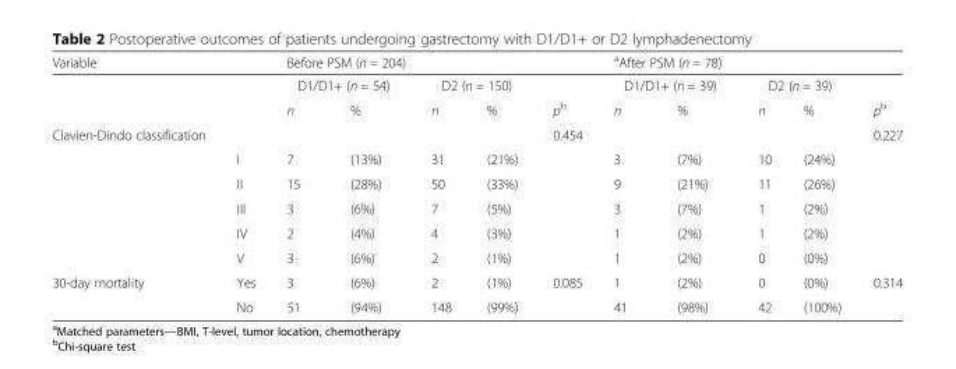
<table><thead><tr><td rowspan="3">Variable</td><td rowspan="3"></td><td colspan="5">Before PSM (n = 204)</td><td colspan="5"><sup>a</sup>After PSM (n = 78)</td></tr><tr><td colspan="2">D1/D1+ (n = 54)</td><td colspan="2">D2 (n = 150)</td><td rowspan="2">p<sup>b</sup></td><td colspan="2">D1/D1+ (n = 39)</td><td colspan="2">D2 (n = 39)</td><td rowspan="2">p<sup>b</sup></td></tr><tr><td>n</td><td>%</td><td>n</td><td>%</td><td>n</td><td>%</td><td>n</td><td>%</td></tr></thead><tbody><tr><td rowspan="6">Clavien-Dindo classification</td><td></td><td></td><td></td><td></td><td></td><td>0.454</td><td></td><td></td><td></td><td></td><td>0.227</td></tr><tr><td>I</td><td>7</td><td>(13%)</td><td>31</td><td>(21%)</td><td></td><td>3</td><td>(7%)</td><td>10</td><td>(24%)</td><td></td></tr><tr><td>II</td><td>15</td><td>(28%)</td><td>50</td><td>(33%)</td><td></td><td>9</td><td>(21%)</td><td>11</td><td>(26%)</td><td></td></tr><tr><td>III</td><td>3</td><td>(6%)</td><td>7</td><td>(5%)</td><td></td><td>3</td><td>(7%)</td><td>1</td><td>(2%)</td><td></td></tr><tr><td>IV</td><td>2</td><td>(4%)</td><td>4</td><td>(3%)</td><td></td><td>1</td><td>(2%)</td><td>1</td><td>(2%)</td><td></td></tr><tr><td>V</td><td>3</td><td>(6%)</td><td>2</td><td>(1%)</td><td></td><td>1</td><td>(2%)</td><td>0</td><td>(0%)</td><td></td></tr><tr><td rowspan="2">30-day mortality</td><td>Yes</td><td>3</td><td>(6%)</td><td>2</td><td>(1%)</td><td>0.085</td><td>1</td><td>(2%)</td><td>0</td><td>(0%)</td><td>0.314</td></tr><tr><td>No</td><td>51</td><td>(94%)</td><td>148</td><td>(99%)</td><td></td><td>41</td><td>(98%)</td><td>42</td><td>(100%)</td><td></td></tr></tbody></table>